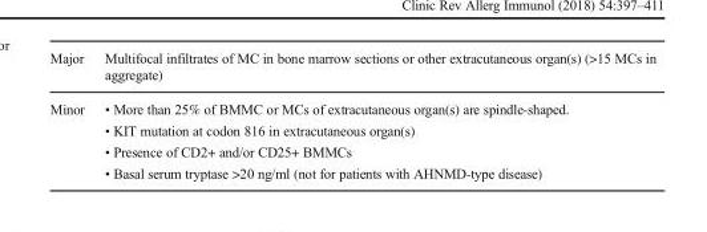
<table><thead><tr><td>Major</td><td>Multifocal infiltrates of MC in bone marrow sections or other extracutaneous organ(s) (&gt;15 MCs in aggregate)</td></tr></thead><tbody><tr><td>Minor</td><td>• More than 25% of BMMC or MCs of extracutaneous organ(s) are spindle-shaped. • KIT mutation at codon 816 in extracutaneous organ(s) • Presence of CD2+ and/or CD25+ BMMCs • Basal serum tryptase &gt;20 ng/ml (not for patients with AHNMD-type disease)</td></tr></tbody></table>